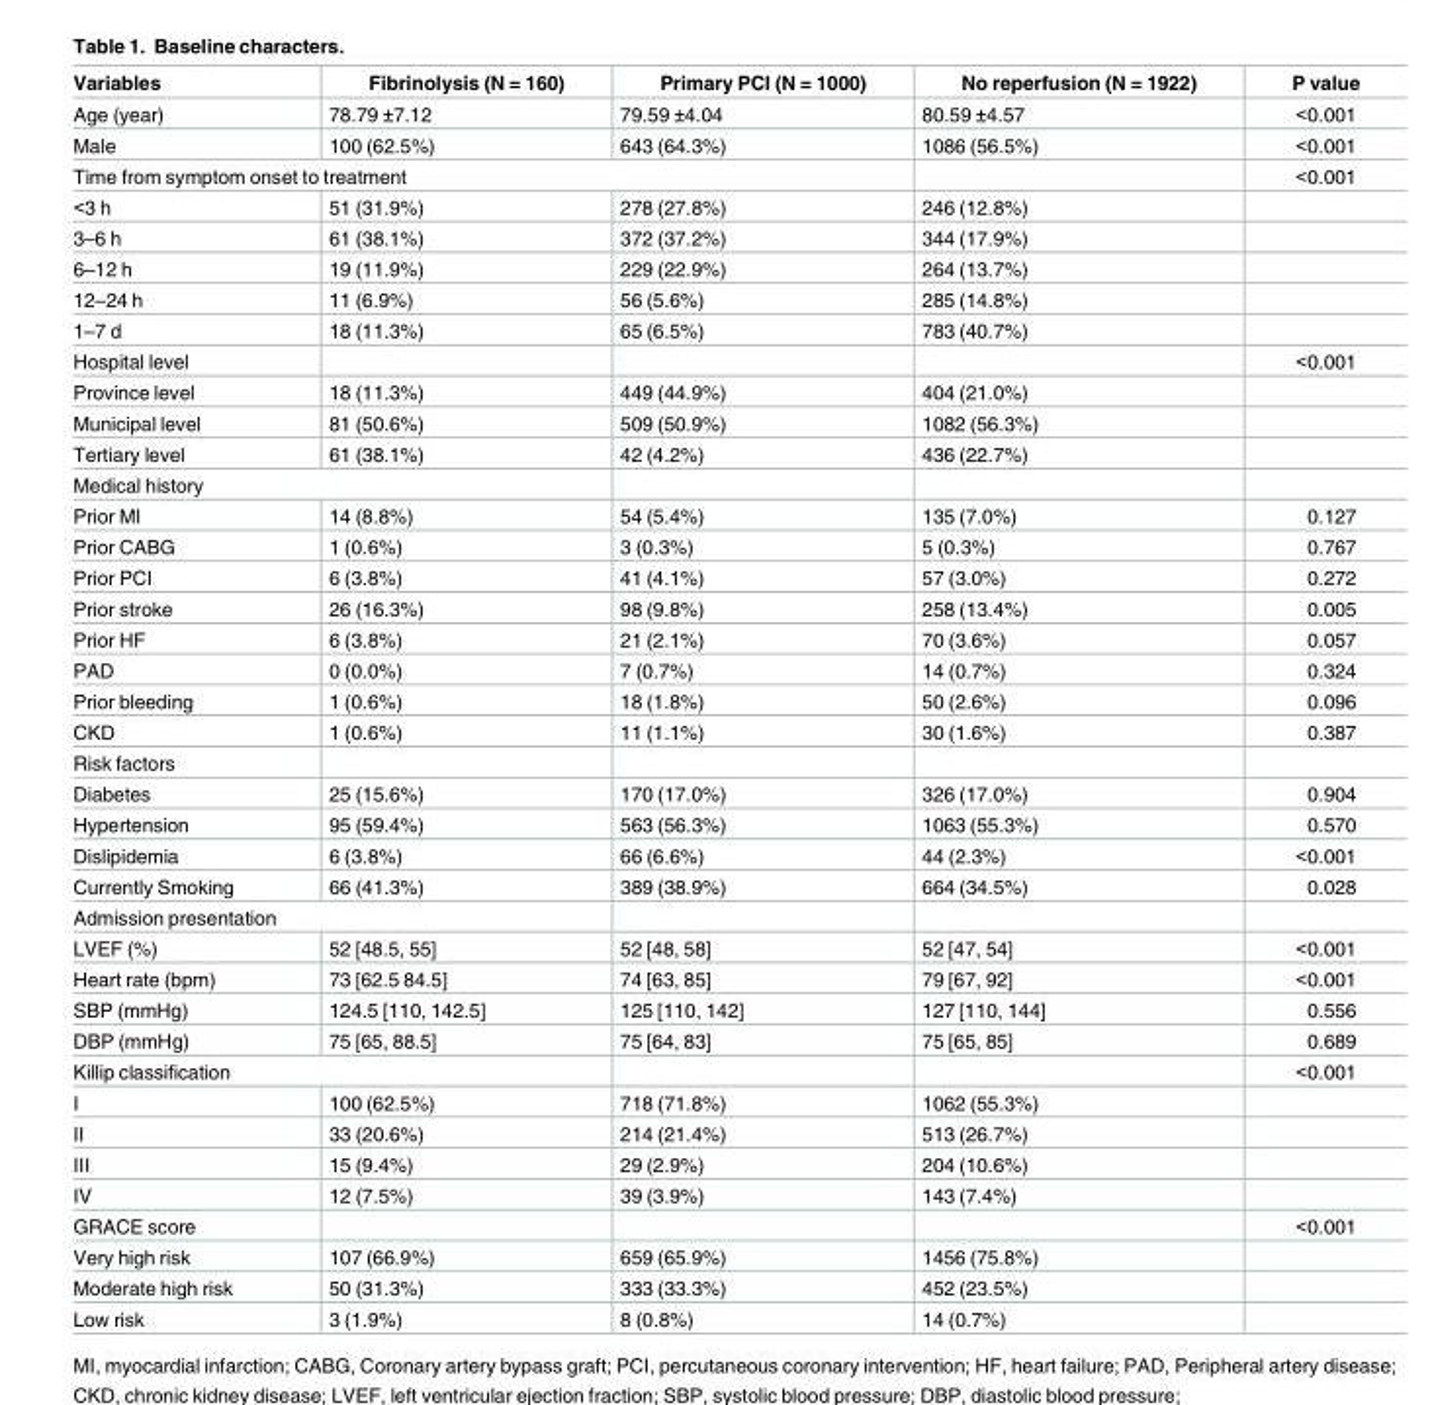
<table><thead><tr><td>Variables</td><td>Fibrinolysis (N = 160)</td><td>Primary PCI (N = 1000)</td><td>No reperfusion (N = 1922)</td><td>P value</td></tr></thead><tbody><tr><td>Age (year)</td><td>78.79 ±7.12</td><td>79.59 ±4.04</td><td>80.59 ±4.57</td><td>&lt;0.001</td></tr><tr><td>Male</td><td>100 (62.5%)</td><td>643 (64.3%)</td><td>1086 (56.5%)</td><td>&lt;0.001</td></tr><tr><td colspan="3">Time from symptom onset to treatment</td><td></td><td>&lt;0.001</td></tr><tr><td>&lt;3 h</td><td>51 (31.9%)</td><td>278 (27.8%)</td><td>246 (12.8%)</td><td></td></tr><tr><td>3–6 h</td><td>61 (38.1%)</td><td>372 (37.2%)</td><td>344 (17.9%)</td><td></td></tr><tr><td>6–12 h</td><td>19 (11.9%)</td><td>229 (22.9%)</td><td>264 (13.7%)</td><td></td></tr><tr><td>12–24 h</td><td>11 (6.9%)</td><td>56 (5.6%)</td><td>285 (14.8%)</td><td></td></tr><tr><td>1–7 d</td><td>18 (11.3%)</td><td>65 (6.5%)</td><td>783 (40.7%)</td><td></td></tr><tr><td>Hospital level</td><td></td><td></td><td></td><td>&lt;0.001</td></tr><tr><td>Province level</td><td>18 (11.3%)</td><td>449 (44.9%)</td><td>404 (21.0%)</td><td></td></tr><tr><td>Municipal level</td><td>81 (50.6%)</td><td>509 (50.9%)</td><td>1082 (56.3%)</td><td></td></tr><tr><td>Tertiary level</td><td>61 (38.1%)</td><td>42 (4.2%)</td><td>436 (22.7%)</td><td></td></tr><tr><td colspan="5">Medical history</td></tr><tr><td>Prior MI</td><td>14 (8.8%)</td><td>54 (5.4%)</td><td>135 (7.0%)</td><td>0.127</td></tr><tr><td>Prior CABG</td><td>1 (0.6%)</td><td>3 (0.3%)</td><td>5 (0.3%)</td><td>0.767</td></tr><tr><td>Prior PCI</td><td>6 (3.8%)</td><td>41 (4.1%)</td><td>57 (3.0%)</td><td>0.272</td></tr><tr><td>Prior stroke</td><td>26 (16.3%)</td><td>98 (9.8%)</td><td>258 (13.4%)</td><td>0.005</td></tr><tr><td>Prior HF</td><td>6 (3.8%)</td><td>21 (2.1%)</td><td>70 (3.6%)</td><td>0.057</td></tr><tr><td>PAD</td><td>0 (0.0%)</td><td>7 (0.7%)</td><td>14 (0.7%)</td><td>0.324</td></tr><tr><td>Prior bleeding</td><td>1 (0.6%)</td><td>18 (1.8%)</td><td>50 (2.6%)</td><td>0.096</td></tr><tr><td>CKD</td><td>1 (0.6%)</td><td>11 (1.1%)</td><td>30 (1.6%)</td><td>0.387</td></tr><tr><td colspan="5">Risk factors</td></tr><tr><td>Diabetes</td><td>25 (15.6%)</td><td>170 (17.0%)</td><td>326 (17.0%)</td><td>0.904</td></tr><tr><td>Hypertension</td><td>95 (59.4%)</td><td>563 (56.3%)</td><td>1063 (55.3%)</td><td>0.570</td></tr><tr><td>Dislipidemia</td><td>6 (3.8%)</td><td>66 (6.6%)</td><td>44 (2.3%)</td><td>&lt;0.001</td></tr><tr><td>Currently Smoking</td><td>66 (41.3%)</td><td>389 (38.9%)</td><td>664 (34.5%)</td><td>0.028</td></tr><tr><td colspan="5">Admission presentation</td></tr><tr><td>LVEF (%)</td><td>52 [48.5, 55]</td><td>52 [48, 58]</td><td>52 [47, 54]</td><td>&lt;0.001</td></tr><tr><td>Heart rate (bpm)</td><td>73 [62.5 84.5]</td><td>74 [63, 85]</td><td>79 [67, 92]</td><td>&lt;0.001</td></tr><tr><td>SBP (mmHg)</td><td>124.5 [110, 142.5]</td><td>125 [110, 142]</td><td>127 [110, 144]</td><td>0.556</td></tr><tr><td>DBP (mmHg)</td><td>75 [65, 88.5]</td><td>75 [64, 83]</td><td>75 [65, 85]</td><td>0.689</td></tr><tr><td colspan="2">Killip classification</td><td></td><td></td><td>&lt;0.001</td></tr><tr><td>I</td><td>100 (62.5%)</td><td>718 (71.8%)</td><td>1062 (55.3%)</td><td></td></tr><tr><td>II</td><td>33 (20.6%)</td><td>214 (21.4%)</td><td>513 (26.7%)</td><td></td></tr><tr><td>III</td><td>15 (9.4%)</td><td>29 (2.9%)</td><td>204 (10.6%)</td><td></td></tr><tr><td>IV</td><td>12 (7.5%)</td><td>39 (3.9%)</td><td>143 (7.4%)</td><td></td></tr><tr><td>GRACE score</td><td></td><td></td><td></td><td>&lt;0.001</td></tr><tr><td>Very high risk</td><td>107 (66.9%)</td><td>659 (65.9%)</td><td>1456 (75.8%)</td><td></td></tr><tr><td>Moderate high risk</td><td>50 (31.3%)</td><td>333 (33.3%)</td><td>452 (23.5%)</td><td></td></tr><tr><td>Low risk</td><td>3 (1.9%)</td><td>8 (0.8%)</td><td>14 (0.7%)</td><td></td></tr></tbody></table>